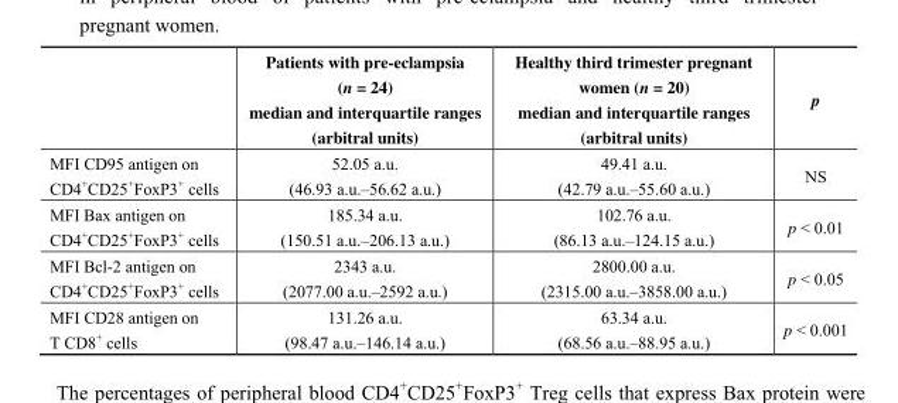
<table><thead><tr><td></td><td>Patients with pre-eclampsia (n = 24) median and interquartile ranges (arbitral units)</td><td>Healthy third trimester pregnant women (n = 20) median and interquartile ranges (arbitral units)</td><td>p</td></tr></thead><tbody><tr><td>MFI CD95 antigen on CD4<sup>+</sup>CD25<sup>+</sup>FoxP3<sup>+</sup> cells</td><td>52.05 a.u. (46.93 a.u.–56.62 a.u.)</td><td>49.41 a.u. (42.79 a.u.–55.60 a.u.)</td><td>NS</td></tr><tr><td>MFI Bax antigen on CD4<sup>+</sup>CD25<sup>+</sup>FoxP3<sup>+</sup> cells</td><td>185.34 a.u. (150.51 a.u.–206.13 a.u.)</td><td>102.76 a.u. (86.13 a.u.–124.15 a.u.)</td><td>p &lt; 0.01</td></tr><tr><td>MFI Bcl-2 antigen on CD4<sup>+</sup>CD25<sup>+</sup>FoxP3<sup>+</sup> cells</td><td>2343 a.u. (2077.00 a.u.–2592 a.u.)</td><td>2800.00 a.u. (2315.00 a.u.–3858.00 a.u.)</td><td>p &lt; 0.05</td></tr><tr><td>MFI CD28 antigen on T CD8<sup>+</sup> cells</td><td>131.26 a.u. (98.47 a.u.–146.14 a.u.)</td><td>63.34 a.u. (68.56 a.u.–88.95 a.u.)</td><td>p &lt; 0.001</td></tr></tbody></table>